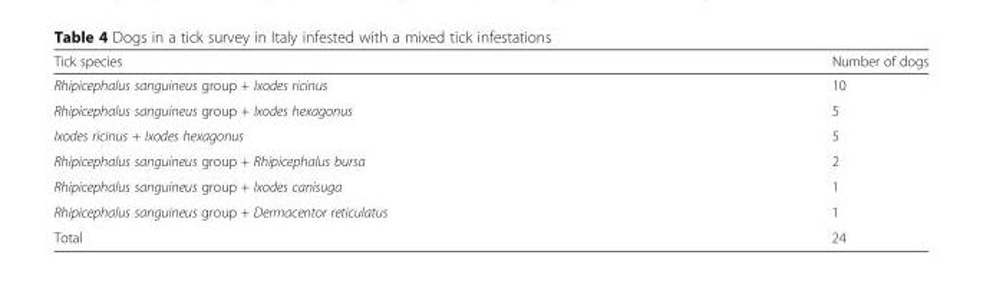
<table><thead><tr><td>Tick species</td><td>Number of dogs</td></tr></thead><tbody><tr><td>Rhipicephalus sanguineus group + Ixodes ricinus</td><td>10</td></tr><tr><td>Rhipicephalus sanguineus group + Ixodes hexagonus</td><td>5</td></tr><tr><td>Ixodes ricinus + Ixodes hexagonus</td><td>5</td></tr><tr><td>Rhipicephalus sanguineus group + Rhipicephalus bursa</td><td>2</td></tr><tr><td>Rhipicephalus sanguineus group + Ixodes canisuga</td><td>1</td></tr><tr><td>Rhipicephalus sanguineus group + Dermacentor reticulatus</td><td>1</td></tr><tr><td>Total</td><td>24</td></tr></tbody></table>